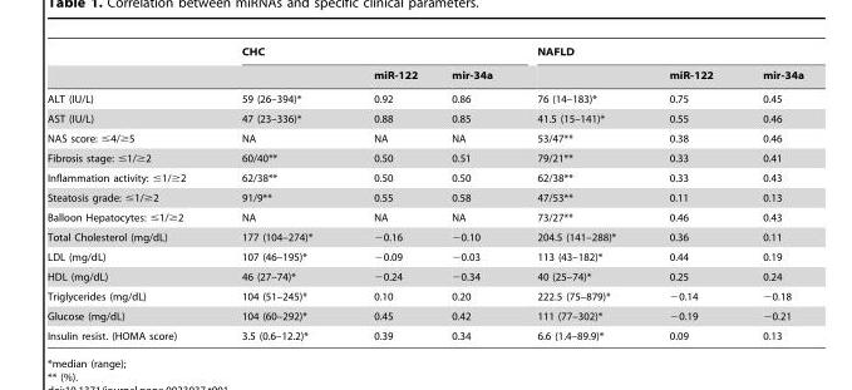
<table><thead><tr><td rowspan="2"></td><td colspan="3">CHC</td><td colspan="3">NAFLD</td></tr><tr><td></td><td>miR-122</td><td>mir-34a</td><td></td><td>miR-122</td><td>mir-34a</td></tr></thead><tbody><tr><td>ALT (IU/L)</td><td>59 (26–394)*</td><td>0.92</td><td>0.86</td><td>76 (14–183)*</td><td>0.75</td><td>0.45</td></tr><tr><td>AST (IU/L)</td><td>47 (23–336)*</td><td>0.88</td><td>0.85</td><td>41.5 (15–141)*</td><td>0.55</td><td>0.46</td></tr><tr><td>NAS score: ≤4/≥5</td><td>NA</td><td>NA</td><td>NA</td><td>53/47**</td><td>0.38</td><td>0.46</td></tr><tr><td>Fibrosis stage: ≤1/≥2</td><td>60/40**</td><td>0.50</td><td>0.51</td><td>79/21**</td><td>0.33</td><td>0.41</td></tr><tr><td>Inflammation activity: ≤1/≥2</td><td>62/38**</td><td>0.50</td><td>0.50</td><td>62/38**</td><td>0.33</td><td>0.43</td></tr><tr><td>Steatosis grade: ≤1/≥2</td><td>91/9**</td><td>0.55</td><td>0.58</td><td>47/53**</td><td>0.11</td><td>0.13</td></tr><tr><td>Balloon Hepatocytes: ≤1/≥2</td><td>NA</td><td>NA</td><td>NA</td><td>73/27**</td><td>0.46</td><td>0.43</td></tr><tr><td>Total Cholesterol (mg/dL)</td><td>177 (104–274)*</td><td>−0.16</td><td>−0.10</td><td>204.5 (141–288)*</td><td>0.36</td><td>0.11</td></tr><tr><td>LDL (mg/dL)</td><td>107 (46–195)*</td><td>−0.09</td><td>−0.03</td><td>113 (43–182)*</td><td>0.44</td><td>0.19</td></tr><tr><td>HDL (mg/dL)</td><td>46 (27–74)*</td><td>−0.24</td><td>−0.34</td><td>40 (25–74)*</td><td>0.25</td><td>0.24</td></tr><tr><td>Triglycerides (mg/dL)</td><td>104 (51–245)*</td><td>0.10</td><td>0.20</td><td>222.5 (75–879)*</td><td>−0.14</td><td>−0.18</td></tr><tr><td>Glucose (mg/dL)</td><td>104 (60–292)*</td><td>0.45</td><td>0.42</td><td>111 (77–302)*</td><td>−0.19</td><td>−0.21</td></tr><tr><td>Insulin resist. (HOMA score)</td><td>3.5 (0.6–12.2)*</td><td>0.39</td><td>0.34</td><td>6.6 (1.4–89.9)*</td><td>0.09</td><td>0.13</td></tr></tbody></table>